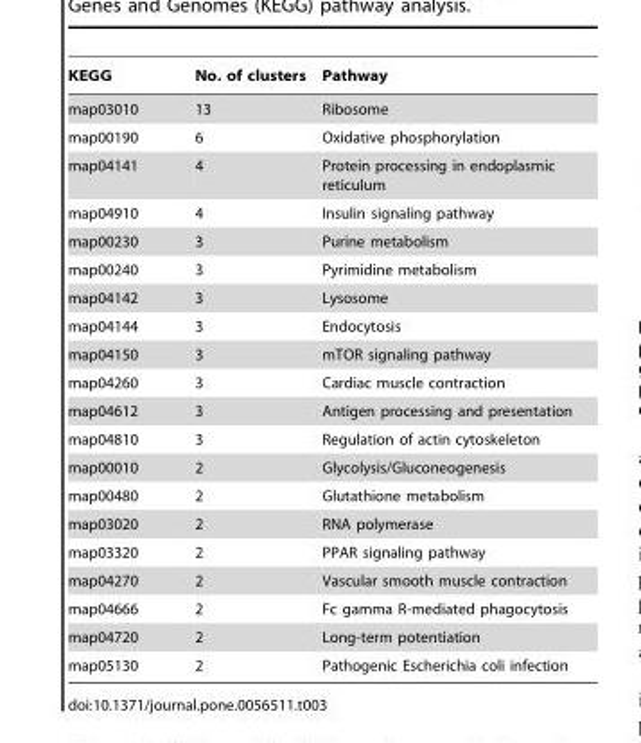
<table><thead><tr><td>KEGG</td><td>No. of clusters</td><td>Pathway</td></tr></thead><tbody><tr><td>map03010</td><td>13</td><td>Ribosome</td></tr><tr><td>map00190</td><td>6</td><td>Oxidative phosphorylation</td></tr><tr><td>map04141</td><td>4</td><td>Protein processing in endoplasmic reticulum</td></tr><tr><td>map04910</td><td>4</td><td>Insulin signaling pathway</td></tr><tr><td>map00230</td><td>3</td><td>Purine metabolism</td></tr><tr><td>map00240</td><td>3</td><td>Pyrimidine metabolism</td></tr><tr><td>map04142</td><td>3</td><td>Lysosome</td></tr><tr><td>map04144</td><td>3</td><td>Endocytosis</td></tr><tr><td>map04150</td><td>3</td><td>mTOR signaling pathway</td></tr><tr><td>map04260</td><td>3</td><td>Cardiac muscle contraction</td></tr><tr><td>map04612</td><td>3</td><td>Antigen processing and presentation</td></tr><tr><td>map04810</td><td>3</td><td>Regulation of actin cytoskeleton</td></tr><tr><td>map00010</td><td>2</td><td>Glycolysis/Gluconeogenesis</td></tr><tr><td>map00480</td><td>2</td><td>Glutathione metabolism</td></tr><tr><td>map03020</td><td>2</td><td>RNA polymerase</td></tr><tr><td>map03320</td><td>2</td><td>PPAR signaling pathway</td></tr><tr><td>map04270</td><td>2</td><td>Vascular smooth muscle contraction</td></tr><tr><td>map04666</td><td>2</td><td>Fc gamma R-mediated phagocytosis</td></tr><tr><td>map04720</td><td>2</td><td>Long-term potentiation</td></tr><tr><td>map05130</td><td>2</td><td>Pathogenic Escherichia coli infection</td></tr></tbody></table>